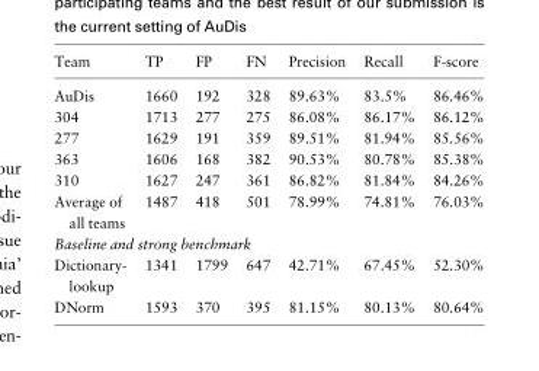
<table><thead><tr><td>Team</td><td>TP</td><td>FP</td><td>FN</td><td>Precision</td><td>Recall</td><td>F-score</td></tr></thead><tbody><tr><td>AuDis</td><td>1660</td><td>192</td><td>328</td><td>89.63%</td><td>83.5%</td><td>86.46%</td></tr><tr><td>304</td><td>1713</td><td>277</td><td>275</td><td>86.08%</td><td>86.17%</td><td>86.12%</td></tr><tr><td>277</td><td>1629</td><td>191</td><td>359</td><td>89.51%</td><td>81.94%</td><td>85.56%</td></tr><tr><td>363</td><td>1606</td><td>168</td><td>382</td><td>90.53%</td><td>80.78%</td><td>85.38%</td></tr><tr><td>310</td><td>1627</td><td>247</td><td>361</td><td>86.82%</td><td>81.84%</td><td>84.26%</td></tr><tr><td>Average of all teams</td><td>1487</td><td>418</td><td>501</td><td>78.99%</td><td>74.81%</td><td>76.03%</td></tr><tr><td colspan="7">Baseline and strong benchmark</td></tr><tr><td>Dictionary- lookup</td><td>1341</td><td>1799</td><td>647</td><td>42.71%</td><td>67.45%</td><td>52.30%</td></tr><tr><td>DNorm</td><td>1593</td><td>370</td><td>395</td><td>81.15%</td><td>80.13%</td><td>80.64%</td></tr></tbody></table>